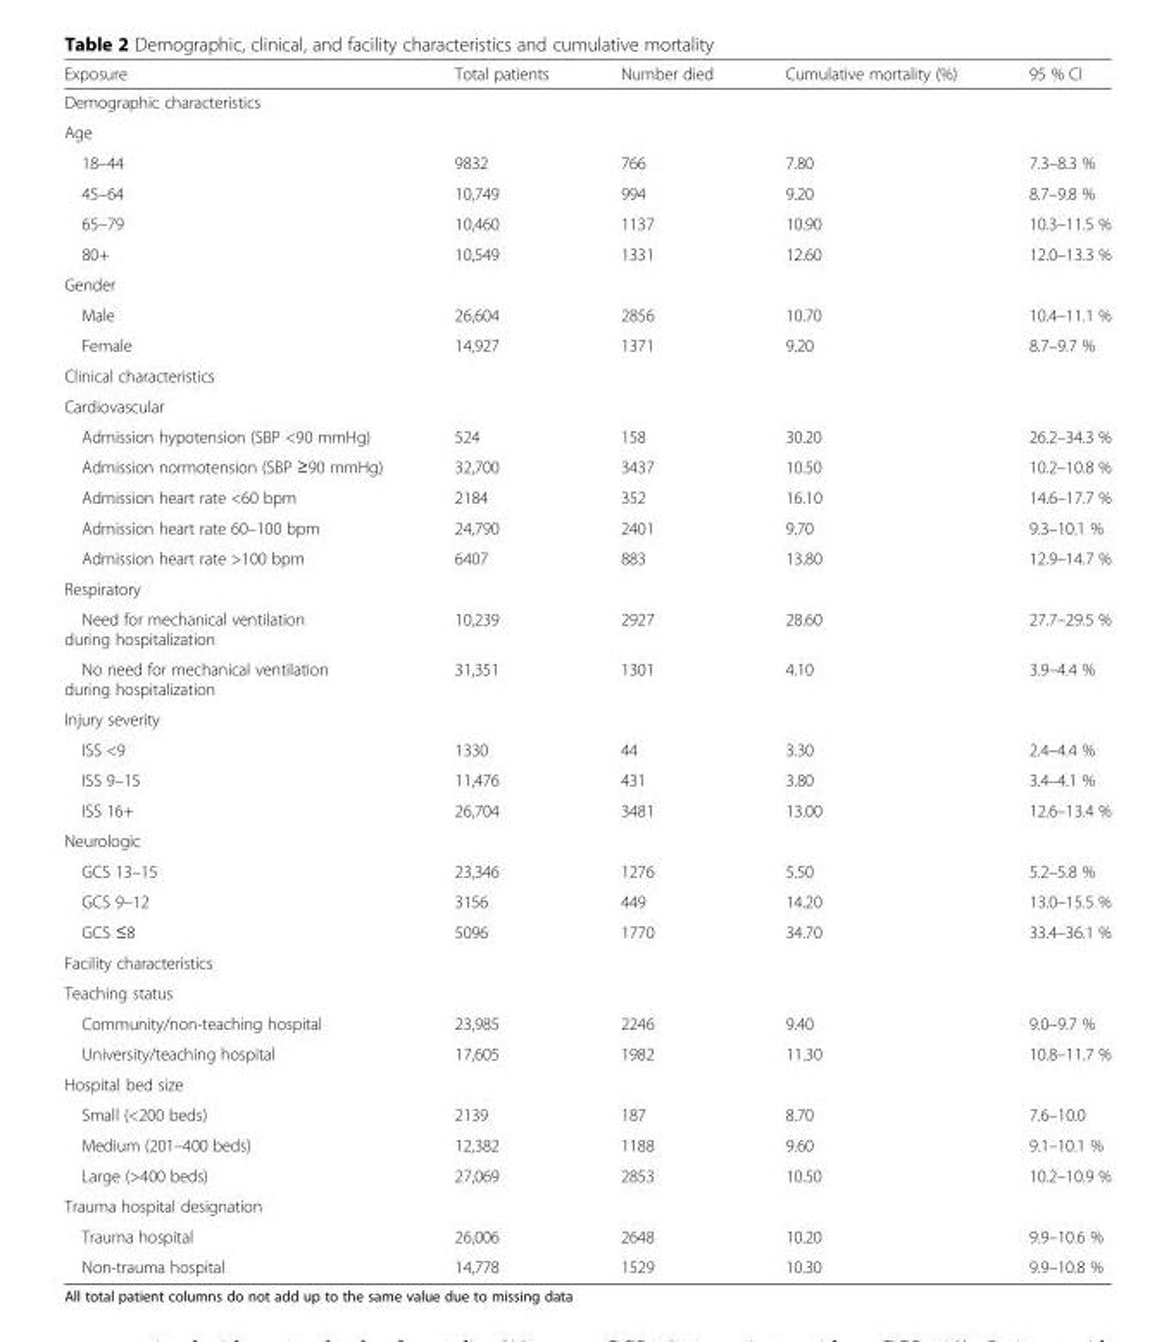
<table><thead><tr><td>Exposure</td><td>Total patients</td><td>Number died</td><td>Cumulative mortality (%)</td><td>95 % CI</td></tr></thead><tbody><tr><td colspan="5">Demographic characteristics</td></tr><tr><td colspan="5">Age</td></tr><tr><td>18–44</td><td>9832</td><td>766</td><td>7.80</td><td>7.3–8.3 %</td></tr><tr><td>45–64</td><td>10,749</td><td>994</td><td>9.20</td><td>8.7–9.8 %</td></tr><tr><td>65–79</td><td>10,460</td><td>1137</td><td>10.90</td><td>10.3–11.5 %</td></tr><tr><td>80+</td><td>10,549</td><td>1331</td><td>12.60</td><td>12.0–13.3 %</td></tr><tr><td colspan="5">Gender</td></tr><tr><td>Male</td><td>26,604</td><td>2856</td><td>10.70</td><td>10.4–11.1 %</td></tr><tr><td>Female</td><td>14,927</td><td>1371</td><td>9.20</td><td>8.7–9.7 %</td></tr><tr><td colspan="5">Clinical characteristics</td></tr><tr><td colspan="5">Cardiovascular</td></tr><tr><td>Admission hypotension (SBP &lt;90 mmHg)</td><td>524</td><td>158</td><td>30.20</td><td>26.2–34.3 %</td></tr><tr><td>Admission normotension (SBP ≥90 mmHg)</td><td>32,700</td><td>3437</td><td>10.50</td><td>10.2–10.8 %</td></tr><tr><td>Admission heart rate &lt;60 bpm</td><td>2184</td><td>352</td><td>16.10</td><td>14.6–17.7 %</td></tr><tr><td>Admission heart rate 60–100 bpm</td><td>24,790</td><td>2401</td><td>9.70</td><td>9.3–10.1 %</td></tr><tr><td>Admission heart rate &gt;100 bpm</td><td>6407</td><td>883</td><td>13.80</td><td>12.9–14.7 %</td></tr><tr><td colspan="5">Respiratory</td></tr><tr><td>Need for mechanical ventilation during hospitalization</td><td>10,239</td><td>2927</td><td>28.60</td><td>27.7–29.5 %</td></tr><tr><td>No need for mechanical ventilation during hospitalization</td><td>31,351</td><td>1301</td><td>4.10</td><td>3.9–4.4 %</td></tr><tr><td colspan="5">Injury severity</td></tr><tr><td>ISS &lt;9</td><td>1330</td><td>44</td><td>3.30</td><td>2.4–4.4 %</td></tr><tr><td>ISS 9–15</td><td>11,476</td><td>431</td><td>3.80</td><td>3.4–4.1 %</td></tr><tr><td>ISS 16+</td><td>26,704</td><td>3481</td><td>13.00</td><td>12.6–13.4 %</td></tr><tr><td colspan="5">Neurologic</td></tr><tr><td>GCS 13–15</td><td>23,346</td><td>1276</td><td>5.50</td><td>5.2–5.8 %</td></tr><tr><td>GCS 9–12</td><td>3156</td><td>449</td><td>14.20</td><td>13.0–15.5 %</td></tr><tr><td>GCS ≤8</td><td>5096</td><td>1770</td><td>34.70</td><td>33.4–36.1 %</td></tr><tr><td colspan="5">Facility characteristics</td></tr><tr><td colspan="5">Teaching status</td></tr><tr><td>Community/non-teaching hospital</td><td>23,985</td><td>2246</td><td>9.40</td><td>9.0–9.7 %</td></tr><tr><td>University/teaching hospital</td><td>17,605</td><td>1982</td><td>11.30</td><td>10.8–11.7 %</td></tr><tr><td colspan="5">Hospital bed size</td></tr><tr><td>Small (&lt;200 beds)</td><td>2139</td><td>187</td><td>8.70</td><td>7.6–10.0</td></tr><tr><td>Medium (201–400 beds)</td><td>12,382</td><td>1188</td><td>9.60</td><td>9.1–10.1 %</td></tr><tr><td>Large (&gt;400 beds)</td><td>27,069</td><td>2853</td><td>10.50</td><td>10.2–10.9 %</td></tr><tr><td colspan="5">Trauma hospital designation</td></tr><tr><td>Trauma hospital</td><td>26,006</td><td>2648</td><td>10.20</td><td>9.9–10.6 %</td></tr><tr><td>Non-trauma hospital</td><td>14,778</td><td>1529</td><td>10.30</td><td>9.9–10.8 %</td></tr></tbody></table>